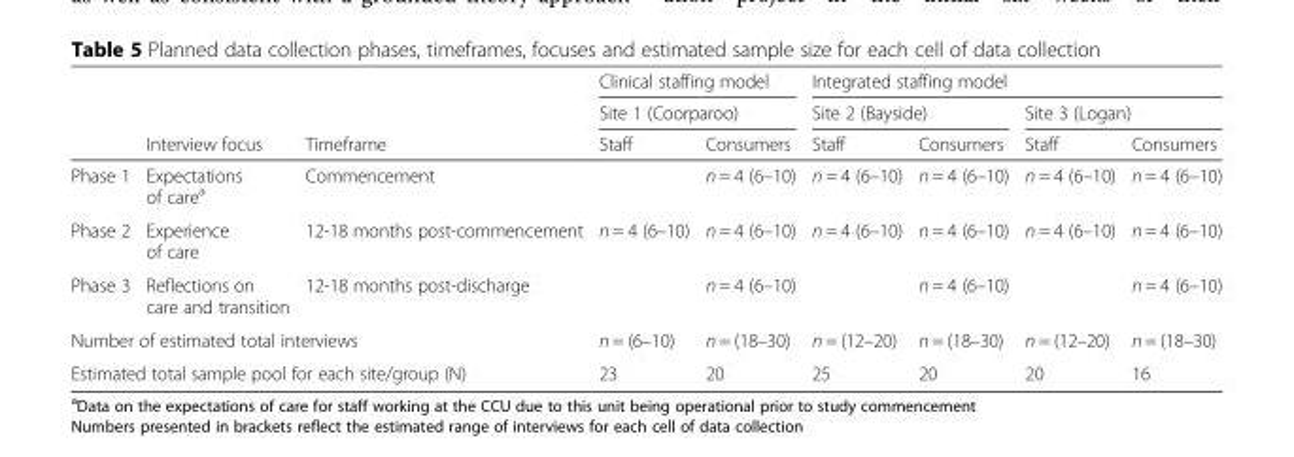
<table><thead><tr><td rowspan="3"></td><td rowspan="3">Interview focus</td><td rowspan="3">Timeframe</td><td rowspan="2" colspan="2">Clinical staffing model Site 1 (Coorparoo)</td><td colspan="4">Integrated staffing model</td></tr><tr><td colspan="2">Site 2 (Bayside)</td><td colspan="2">Site 3 (Logan)</td></tr><tr><td>Staff</td><td>Consumers</td><td>Staff</td><td>Consumers</td><td>Staff</td><td>Consumers</td></tr></thead><tbody><tr><td>Phase 1</td><td>Expectations of care<sup>a</sup></td><td>Commencement</td><td></td><td>n = 4 (6–10)</td><td>n = 4 (6–10)</td><td>n = 4 (6–10)</td><td>n = 4 (6–10)</td><td>n = 4 (6–10)</td></tr><tr><td>Phase 2</td><td>Experience of care</td><td>12-18 months post-commencement</td><td>n = 4 (6–10)</td><td>n = 4 (6–10)</td><td>n = 4 (6–10)</td><td>n = 4 (6–10)</td><td>n = 4 (6–10)</td><td>n = 4 (6–10)</td></tr><tr><td>Phase 3</td><td>Reflections on care and transition</td><td>12-18 months post-discharge</td><td></td><td>n = 4 (6–10)</td><td></td><td>n = 4 (6–10)</td><td></td><td>n = 4 (6–10)</td></tr><tr><td colspan="3">Number of estimated total interviews</td><td>n = (6–10)</td><td>n = (18–30)</td><td>n = (12–20)</td><td>n = (18–30)</td><td>n = (12–20)</td><td>n = (18–30)</td></tr><tr><td colspan="3">Estimated total sample pool for each site/group (N)</td><td>23</td><td>20</td><td>25</td><td>20</td><td>20</td><td>16</td></tr></tbody></table>